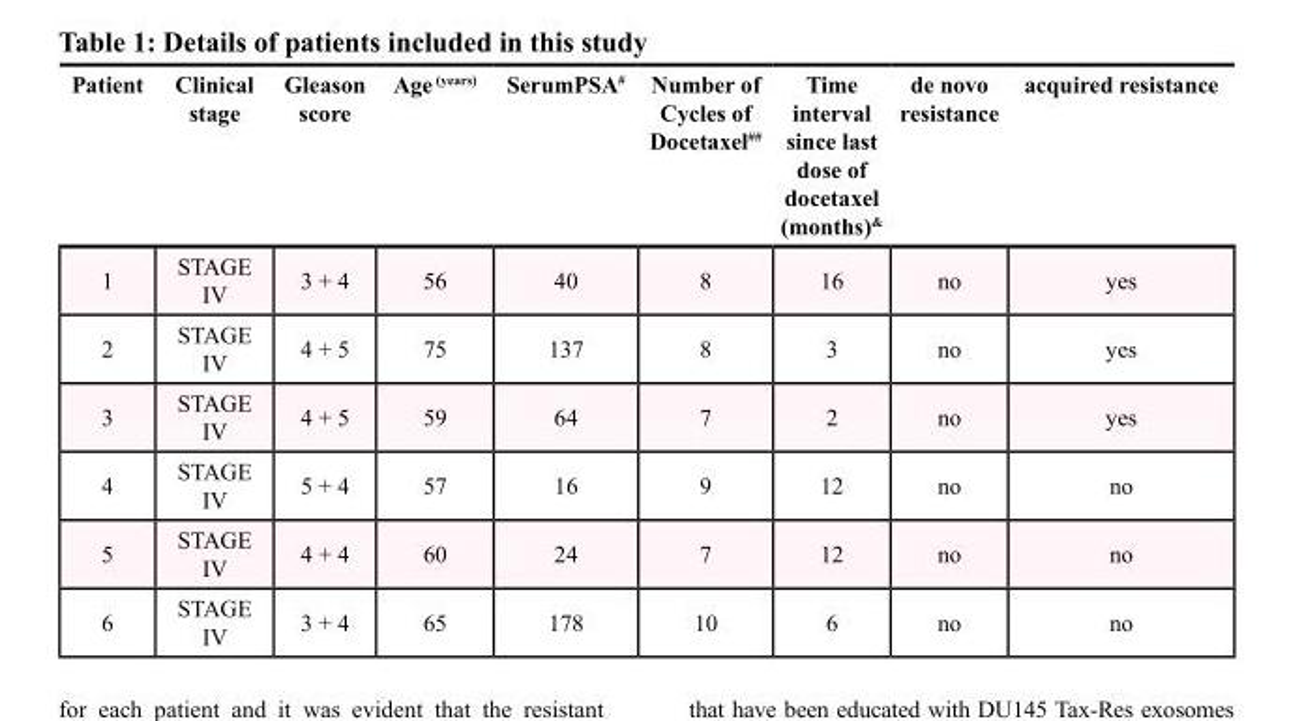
<table><thead><tr><td>Patient</td><td>Clinical stage</td><td>Gleason score</td><td>Age <sup>(years)</sup></td><td>SerumPSA<sup>#</sup></td><td>Number of Cycles of Docetaxel<sup>##</sup></td><td>Time interval since last dose of docetaxel (months)<sup>&amp;</sup></td><td>de novo resistance</td><td>acquired resistance</td></tr></thead><tbody><tr><td>1</td><td>STAGE IV</td><td>3 + 4</td><td>56</td><td>40</td><td>8</td><td>16</td><td>no</td><td>yes</td></tr><tr><td>2</td><td>STAGE IV</td><td>4 + 5</td><td>75</td><td>137</td><td>8</td><td>3</td><td>no</td><td>yes</td></tr><tr><td>3</td><td>STAGE IV</td><td>4 + 5</td><td>59</td><td>64</td><td>7</td><td>2</td><td>no</td><td>yes</td></tr><tr><td>4</td><td>STAGE IV</td><td>5 + 4</td><td>57</td><td>16</td><td>9</td><td>12</td><td>no</td><td>no</td></tr><tr><td>5</td><td>STAGE IV</td><td>4 + 4</td><td>60</td><td>24</td><td>7</td><td>12</td><td>no</td><td>no</td></tr><tr><td>6</td><td>STAGE IV</td><td>3 + 4</td><td>65</td><td>178</td><td>10</td><td>6</td><td>no</td><td>no</td></tr></tbody></table>